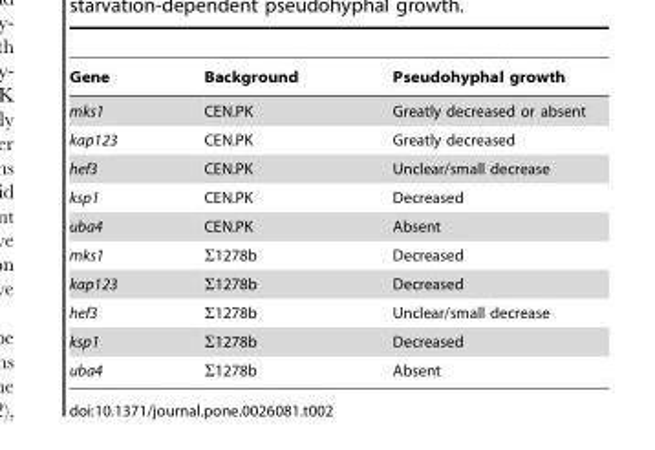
<table><thead><tr><td>Gene</td><td>Background</td><td>Pseudohyphal growth</td></tr></thead><tbody><tr><td>mks1</td><td>CEN.PK</td><td>Greatly decreased or absent</td></tr><tr><td>kap123</td><td>CEN.PK</td><td>Greatly decreased</td></tr><tr><td>hef3</td><td>CEN.PK</td><td>Unclear/small decrease</td></tr><tr><td>ksp1</td><td>CEN.PK</td><td>Decreased</td></tr><tr><td>uba4</td><td>CEN.PK</td><td>Absent</td></tr><tr><td>mks1</td><td>Σ1278b</td><td>Decreased</td></tr><tr><td>kap123</td><td>Σ1278b</td><td>Decreased</td></tr><tr><td>hef3</td><td>Σ1278b</td><td>Unclear/small decrease</td></tr><tr><td>ksp1</td><td>Σ1278b</td><td>Decreased</td></tr><tr><td>uba4</td><td>Σ1278b</td><td>Absent</td></tr></tbody></table>